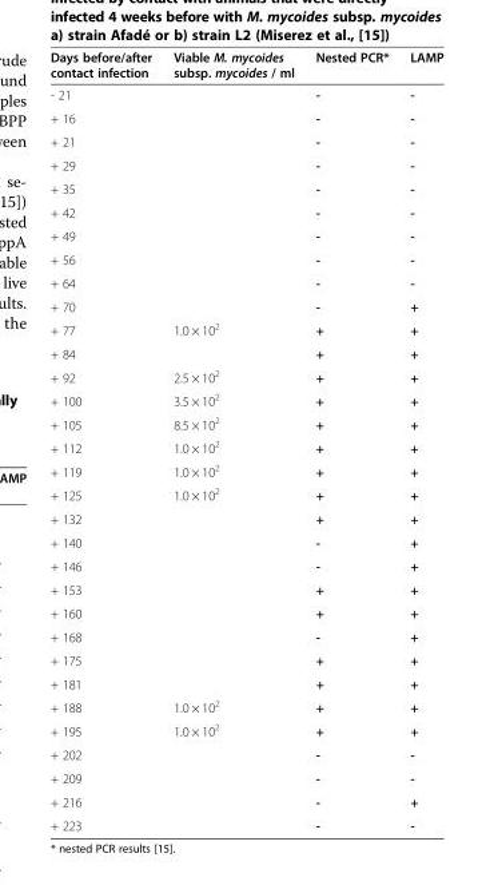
<table><thead><tr><td>Days before/after contact infection</td><td>Viable M. mycoides subsp. mycoides / ml</td><td>Nested PCR*</td><td>LAMP</td></tr></thead><tbody><tr><td>- 21</td><td></td><td>-</td><td>-</td></tr><tr><td>+ 16</td><td></td><td>-</td><td>-</td></tr><tr><td>+ 21</td><td></td><td>-</td><td>-</td></tr><tr><td>+ 29</td><td></td><td>-</td><td>-</td></tr><tr><td>+ 35</td><td></td><td>-</td><td>-</td></tr><tr><td>+ 42</td><td></td><td>-</td><td>-</td></tr><tr><td>+ 49</td><td></td><td>-</td><td>-</td></tr><tr><td>+ 56</td><td></td><td>-</td><td>-</td></tr><tr><td>+ 64</td><td></td><td>-</td><td>-</td></tr><tr><td>+ 70</td><td></td><td>-</td><td>+</td></tr><tr><td>+ 77</td><td>1.0 × 10<sup>2</sup></td><td>+</td><td>+</td></tr><tr><td>+ 84</td><td></td><td>+</td><td>+</td></tr><tr><td>+ 92</td><td>2.5 × 10<sup>2</sup></td><td>+</td><td>+</td></tr><tr><td>+ 100</td><td>3.5 × 10<sup>2</sup></td><td>+</td><td>+</td></tr><tr><td>+ 105</td><td>8.5 × 10<sup>2</sup></td><td>+</td><td>+</td></tr><tr><td>+ 112</td><td>1.0 × 10<sup>2</sup></td><td>+</td><td>+</td></tr><tr><td>+ 119</td><td>1.0 × 10<sup>2</sup></td><td>+</td><td>+</td></tr><tr><td>+ 125</td><td>1.0 × 10<sup>2</sup></td><td>+</td><td>+</td></tr><tr><td>+ 132</td><td></td><td>+</td><td>+</td></tr><tr><td>+ 140</td><td></td><td>-</td><td>+</td></tr><tr><td>+ 146</td><td></td><td>-</td><td>+</td></tr><tr><td>+ 153</td><td></td><td>+</td><td>+</td></tr><tr><td>+ 160</td><td></td><td>+</td><td>+</td></tr><tr><td>+ 168</td><td></td><td>-</td><td>+</td></tr><tr><td>+ 175</td><td></td><td>+</td><td>+</td></tr><tr><td>+ 181</td><td></td><td>+</td><td>+</td></tr><tr><td>+ 188</td><td>1.0 × 10<sup>2</sup></td><td>+</td><td>+</td></tr><tr><td>+ 195</td><td>1.0 × 10<sup>2</sup></td><td>+</td><td>+</td></tr><tr><td>+ 202</td><td></td><td>-</td><td>-</td></tr><tr><td>+ 209</td><td></td><td>-</td><td>-</td></tr><tr><td>+ 216</td><td></td><td>-</td><td>+</td></tr><tr><td>+ 223</td><td></td><td>-</td><td>-</td></tr></tbody></table>